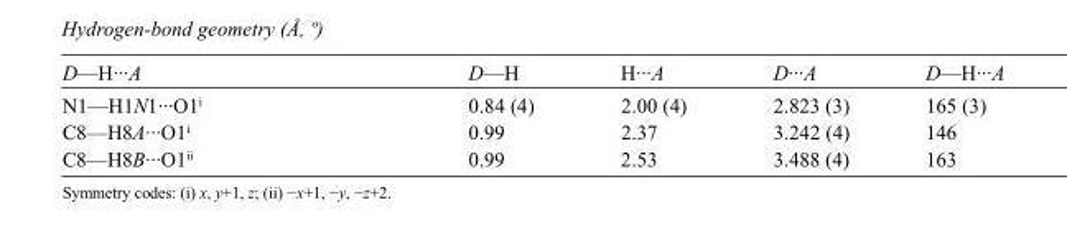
<table><tbody><tr><td>D—H···A</td><td>D—H</td><td>H···A</td><td>D···A</td><td>D—H···A</td></tr><tr><td>N1—H1N1···O1<sup>i</sup></td><td>0.84 (4)</td><td>2.00 (4)</td><td>2.823 (3)</td><td>165 (3)</td></tr><tr><td>C8—H8A···O1<sup>i</sup></td><td>0.99</td><td>2.37</td><td>3.242 (4)</td><td>146</td></tr><tr><td>C8—H8B···O1<sup>ii</sup></td><td>0.99</td><td>2.53</td><td>3.488 (4)</td><td>163</td></tr></tbody></table>